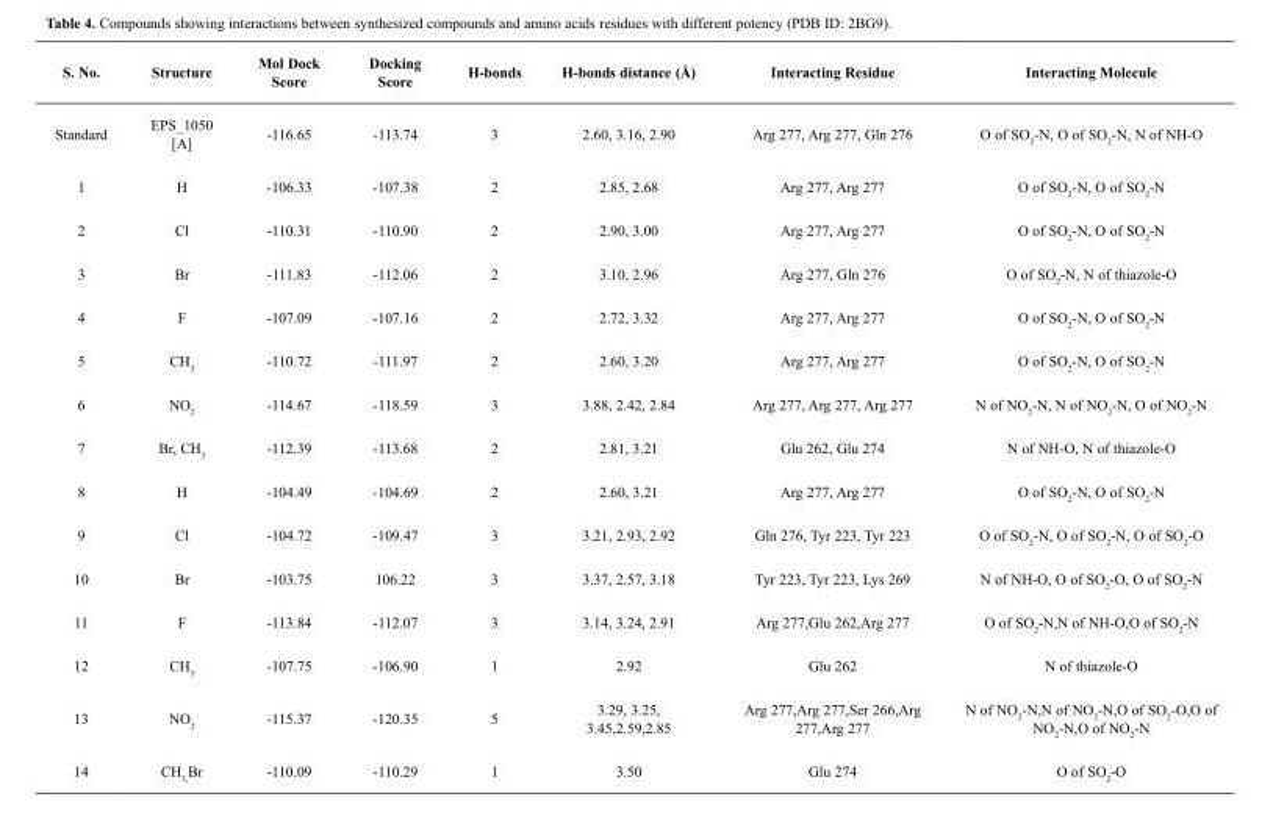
<table><thead><tr><td>S. No.</td><td>Structure</td><td>Mol Dock Score</td><td>Docking Score</td><td>H-bonds</td><td>H-bonds distance (Å)</td><td>Interacting Residue</td><td>Interacting Molecule</td></tr></thead><tbody><tr><td>Standard</td><td>EPS_1050 [A]</td><td>-116.65</td><td>-113.74</td><td>3</td><td>2.60, 3.16, 2.90</td><td>Arg 277, Arg 277, Gln 276</td><td>O of SO<sub>2</sub>-N, O of SO<sub>2</sub>-N, N of NH-O</td></tr><tr><td>1</td><td>H</td><td>-106.33</td><td>-107.38</td><td>2</td><td>2.85, 2.68</td><td>Arg 277, Arg 277</td><td>O of SO<sub>2</sub>-N, O of SO<sub>2</sub>-N</td></tr><tr><td>2</td><td>Cl</td><td>-110.31</td><td>-110.90</td><td>2</td><td>2.90, 3.00</td><td>Arg 277, Arg 277</td><td>O of SO<sub>2</sub>-N, O of SO<sub>2</sub>-N</td></tr><tr><td>3</td><td>Br</td><td>-111.83</td><td>-112.06</td><td>2</td><td>3.10, 2.96</td><td>Arg 277, Gln 276</td><td>O of SO<sub>2</sub>-N, N of thiazole-O</td></tr><tr><td>4</td><td>F</td><td>-107.09</td><td>-107.16</td><td>2</td><td>2.72, 3.32</td><td>Arg 277, Arg 277</td><td>O of SO<sub>2</sub>-N, O of SO<sub>2</sub>-N</td></tr><tr><td>5</td><td>CH<sub>3</sub></td><td>-110.72</td><td>-111.97</td><td>2</td><td>2.60, 3.20</td><td>Arg 277, Arg 277</td><td>O of SO<sub>2</sub>-N, O of SO<sub>2</sub>-N</td></tr><tr><td>6</td><td>NO<sub>2</sub></td><td>-114.67</td><td>-118.59</td><td>3</td><td>3.88, 2.42, 2.84</td><td>Arg 277, Arg 277, Arg 277</td><td>N of NO<sub>2</sub>-N, N of NO<sub>2</sub>-N, O of NO<sub>2</sub>-N</td></tr><tr><td>7</td><td>Br, CH<sub>3</sub></td><td>-112.39</td><td>-113.68</td><td>2</td><td>2.81, 3.21</td><td>Glu 262, Glu 274</td><td>N of NH-O, N of thiazole-O</td></tr><tr><td>8</td><td>H</td><td>-104.49</td><td>-104.69</td><td>2</td><td>2.60, 3.21</td><td>Arg 277, Arg 277</td><td>O of SO<sub>2</sub>-N, O of SO<sub>2</sub>-N</td></tr><tr><td>9</td><td>Cl</td><td>-104.72</td><td>-109.47</td><td>3</td><td>3.21, 2.93, 2.92</td><td>Gln 276, Tyr 223, Tyr 223</td><td>O of SO<sub>2</sub>-N, O of SO<sub>2</sub>-N, O of SO<sub>2</sub>-O</td></tr><tr><td>10</td><td>Br</td><td>-103.75</td><td>106.22</td><td>3</td><td>3.37, 2.57, 3.18</td><td>Tyr 223, Tyr 223, Lys 269</td><td>N of NH-O, O of SO<sub>2</sub>-O, O of SO<sub>2</sub>-N</td></tr><tr><td>11</td><td>F</td><td>-113.84</td><td>-112.07</td><td>3</td><td>3.14, 3.24, 2.91</td><td>Arg 277,Glu 262,Arg 277</td><td>O of SO<sub>2</sub>-N,N of NH-O,O of SO<sub>2</sub>-N</td></tr><tr><td>12</td><td>CH<sub>3</sub></td><td>-107.75</td><td>-106.90</td><td>1</td><td>2.92</td><td>Glu 262</td><td>N of thiazole-O</td></tr><tr><td>13</td><td>NO<sub>2</sub></td><td>-115.37</td><td>-120.35</td><td>5</td><td>3.29, 3.25, 3.45,2.59,2.85</td><td>Arg 277,Arg 277,Ser 266,Arg 277,Arg 277</td><td>N of NO<sub>2</sub>-N,N of NO<sub>2</sub>-N,O of SO<sub>2</sub>-O,O of NO<sub>2</sub>-N,O of NO<sub>2</sub>-N</td></tr><tr><td>14</td><td>CH<sub>3,</sub>Br</td><td>-110.09</td><td>-110.29</td><td>1</td><td>3.50</td><td>Glu 274</td><td>O of SO<sub>2</sub>-O</td></tr></tbody></table>